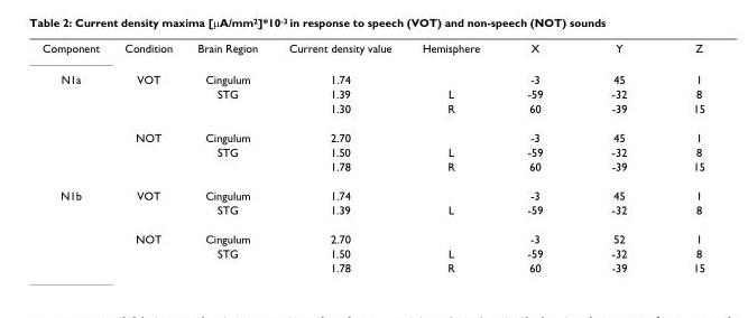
<table><thead><tr><td>Component</td><td>Condition</td><td>Brain Region</td><td>Current density value</td><td>Hemisphere</td><td>X</td><td>Y</td><td>Z</td></tr></thead><tbody><tr><td rowspan="6">N1a</td><td>VOT</td><td>Cingulum</td><td>1.74</td><td></td><td>-3</td><td>45</td><td>1</td></tr><tr><td></td><td>STG</td><td>1.39</td><td>L</td><td>-59</td><td>-32</td><td>8</td></tr><tr><td></td><td></td><td>1.30</td><td>R</td><td>60</td><td>-39</td><td>15</td></tr><tr><td>NOT</td><td>Cingulum</td><td>2.70</td><td></td><td>-3</td><td>45</td><td>1</td></tr><tr><td></td><td>STG</td><td>1.50</td><td>L</td><td>-59</td><td>-32</td><td>8</td></tr><tr><td></td><td></td><td>1.78</td><td>R</td><td>60</td><td>-39</td><td>15</td></tr><tr><td rowspan="5">N1b</td><td>VOT</td><td>Cingulum</td><td>1.74</td><td></td><td>-3</td><td>45</td><td>1</td></tr><tr><td></td><td>STG</td><td>1.39</td><td>L</td><td>-59</td><td>-32</td><td>8</td></tr><tr><td>NOT</td><td>Cingulum</td><td>2.70</td><td></td><td>-3</td><td>52</td><td>1</td></tr><tr><td></td><td>STG</td><td>1.50</td><td>L</td><td>-59</td><td>-32</td><td>8</td></tr><tr><td></td><td></td><td>1.78</td><td>R</td><td>60</td><td>-39</td><td>15</td></tr></tbody></table>